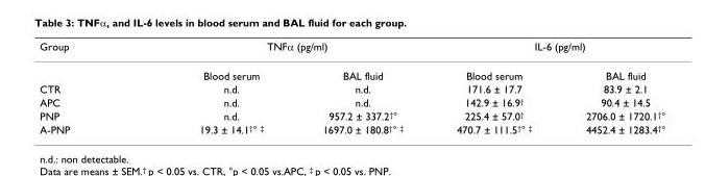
<table><thead><tr><td rowspan="2">Group</td><td colspan="2">TNFα (pg/ml)</td><td colspan="2">IL-6 (pg/ml)</td></tr><tr><td>Blood serum</td><td>BAL fluid</td><td>Blood serum</td><td>BAL fluid</td></tr></thead><tbody><tr><td>CTR</td><td>n.d.</td><td>n.d.</td><td>171.6 ± 17.7</td><td>83.9 ± 2.1</td></tr><tr><td>APC</td><td>n.d.</td><td>n.d.</td><td>142.9 ± 16.9<sup>†</sup></td><td>90.4 ± 14.5</td></tr><tr><td>PNP</td><td>n.d.</td><td>957.2 ± 337.2<sup>†</sup>°</td><td>225.4 ± 57.0<sup>†</sup></td><td>2706.0 ± 1720.1<sup>†</sup>°</td></tr><tr><td>A-PNP</td><td>19.3 ± 14.1<sup>†</sup>° <sup>‡</sup></td><td>1697.0 ± 180.8<sup>†</sup>° <sup>‡</sup></td><td>470.7 ± 111.5<sup>†</sup>° <sup>‡</sup></td><td>4452.4 ± 1283.4<sup>†</sup>°</td></tr></tbody></table>